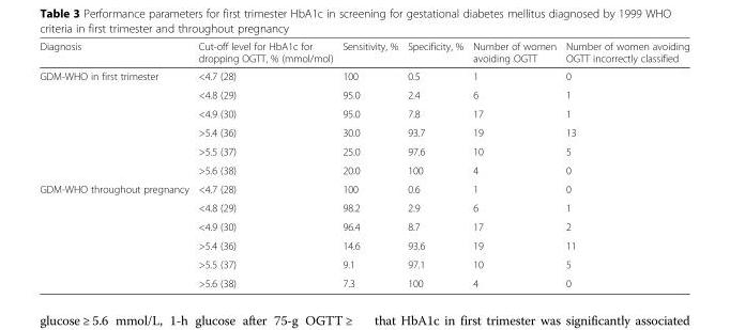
<table><thead><tr><td>Diagnosis</td><td>Cut-off level for HbA1c for dropping OGTT, % (mmol/mol)</td><td>Sensitivity, %</td><td>Specificity, %</td><td>Number of women avoiding OGTT</td><td>Number of women avoiding OGTT incorrectly classified</td></tr></thead><tbody><tr><td rowspan="6">GDM-WHO in first trimester</td><td>&lt;4.7 (28)</td><td>100</td><td>0.5</td><td>1</td><td>0</td></tr><tr><td>&lt;4.8 (29)</td><td>95.0</td><td>2.4</td><td>6</td><td>1</td></tr><tr><td>&lt;4.9 (30)</td><td>95.0</td><td>7.8</td><td>17</td><td>1</td></tr><tr><td>&gt;5.4 (36)</td><td>30.0</td><td>93.7</td><td>19</td><td>13</td></tr><tr><td>&gt;5.5 (37)</td><td>25.0</td><td>97.6</td><td>10</td><td>5</td></tr><tr><td>&gt;5.6 (38)</td><td>20.0</td><td>100</td><td>4</td><td>0</td></tr><tr><td rowspan="6">GDM-WHO throughout pregnancy</td><td>&lt;4.7 (28)</td><td>100</td><td>0.6</td><td>1</td><td>0</td></tr><tr><td>&lt;4.8 (29)</td><td>98.2</td><td>2.9</td><td>6</td><td>1</td></tr><tr><td>&lt;4.9 (30)</td><td>96.4</td><td>8.7</td><td>17</td><td>2</td></tr><tr><td>&gt;5.4 (36)</td><td>14.6</td><td>93.6</td><td>19</td><td>11</td></tr><tr><td>&gt;5.5 (37)</td><td>9.1</td><td>97.1</td><td>10</td><td>5</td></tr><tr><td>&gt;5.6 (38)</td><td>7.3</td><td>100</td><td>4</td><td>0</td></tr></tbody></table>